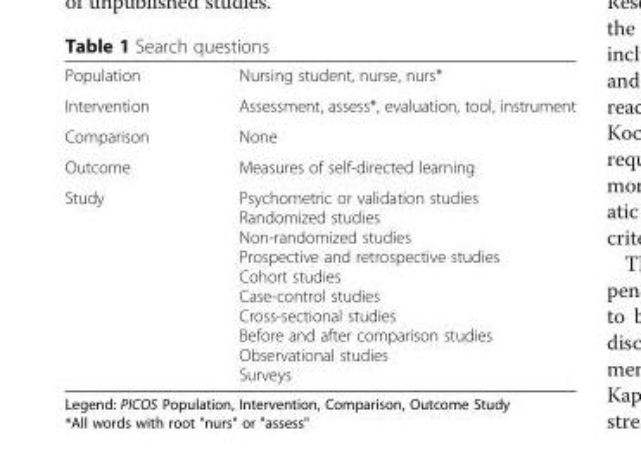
<table><tbody><tr><td>Population</td><td>Nursing student, nurse, nurs*</td></tr><tr><td>Intervention</td><td>Assessment, assess*, evaluation, tool, instrument</td></tr><tr><td>Comparison</td><td>None</td></tr><tr><td>Outcome</td><td>Measures of self-directed learning</td></tr><tr><td>Study</td><td>Psychometric or validation studies Randomized studies Non-randomized studies Prospective and retrospective studies Cohort studies Case-control studies Cross-sectional studies Before and after comparison studies Observational studies Surveys</td></tr></tbody></table>